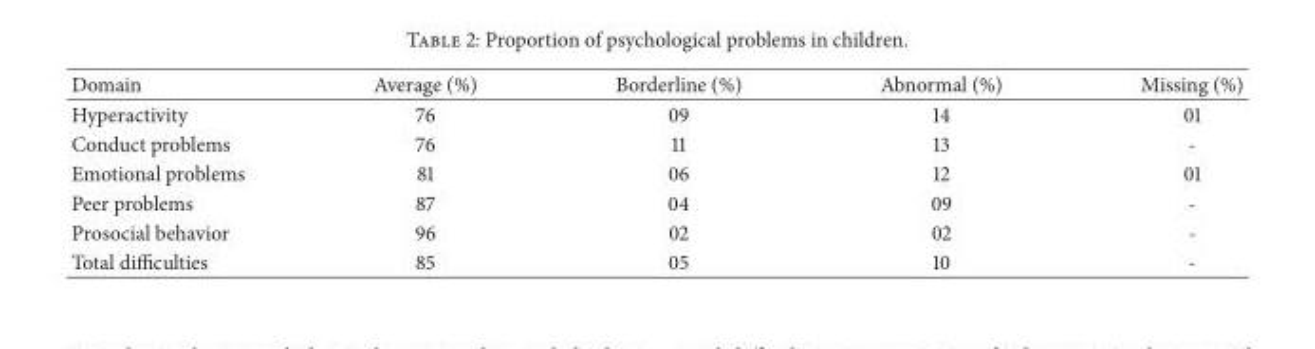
<table><thead><tr><td>Domain</td><td>Average (%)</td><td>Borderline (%)</td><td>Abnormal (%)</td><td>Missing (%)</td></tr></thead><tbody><tr><td>Hyperactivity</td><td>76</td><td>09</td><td>14</td><td>01</td></tr><tr><td>Conduct problems</td><td>76</td><td>11</td><td>13</td><td>-</td></tr><tr><td>Emotional problems</td><td>81</td><td>06</td><td>12</td><td>01</td></tr><tr><td>Peer problems</td><td>87</td><td>04</td><td>09</td><td>-</td></tr><tr><td>Prosocial behavior</td><td>96</td><td>02</td><td>02</td><td>-</td></tr><tr><td>Total difficulties</td><td>85</td><td>05</td><td>10</td><td>-</td></tr></tbody></table>